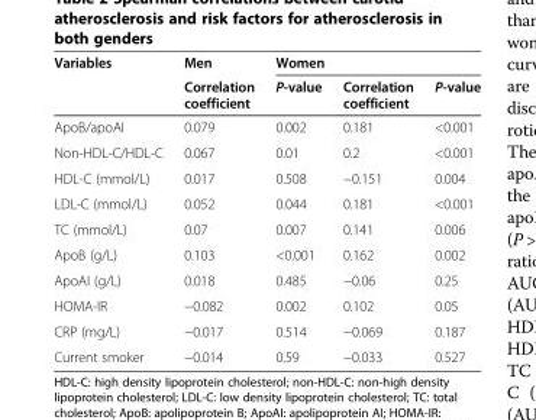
<table><thead><tr><td rowspan="2">Variables</td><td rowspan="2">Men Correlation coefficient</td><td colspan="3">Women</td></tr><tr><td>P-value</td><td>Correlation coefficient</td><td>P-value</td></tr></thead><tbody><tr><td>ApoB/apoAΙ</td><td>0.079</td><td>0.002</td><td>0.181</td><td>&lt;0.001</td></tr><tr><td>Non-HDL-C/HDL-C</td><td>0.067</td><td>0.01</td><td>0.2</td><td>&lt;0.001</td></tr><tr><td>HDL-C (mmol/L)</td><td>0.017</td><td>0.508</td><td>−0.151</td><td>0.004</td></tr><tr><td>LDL-C (mmol/L)</td><td>0.052</td><td>0.044</td><td>0.181</td><td>&lt;0.001</td></tr><tr><td>TC (mmol/L)</td><td>0.07</td><td>0.007</td><td>0.141</td><td>0.006</td></tr><tr><td>ApoB (g/L)</td><td>0.103</td><td>&lt;0.001</td><td>0.162</td><td>0.002</td></tr><tr><td>ApoAΙ (g/L)</td><td>0.018</td><td>0.485</td><td>−0.06</td><td>0.25</td></tr><tr><td>HOMA-IR</td><td>−0.082</td><td>0.002</td><td>0.102</td><td>0.05</td></tr><tr><td>CRP (mg/L)</td><td>−0.017</td><td>0.514</td><td>−0.069</td><td>0.187</td></tr><tr><td>Current smoker</td><td>−0.014</td><td>0.59</td><td>−0.033</td><td>0.527</td></tr></tbody></table>